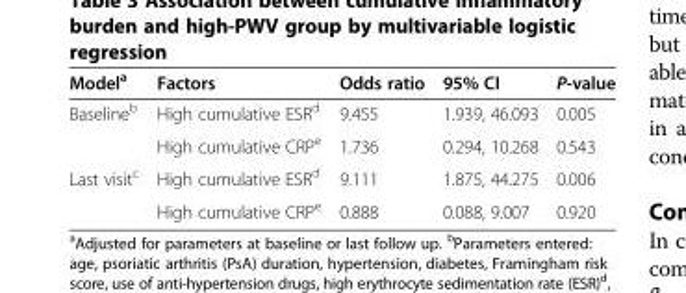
<table><thead><tr><td>Model<sup>a</sup></td><td>Factors</td><td>Odds ratio</td><td>95% CI</td><td>P-value</td></tr></thead><tbody><tr><td rowspan="2">Baseline<sup>b</sup></td><td>High cumulative ESR<sup>d</sup></td><td>9.455</td><td>1.939, 46.093</td><td>0.005</td></tr><tr><td>High cumulative CRP<sup>e</sup></td><td>1.736</td><td>0.294, 10.268</td><td>0.543</td></tr><tr><td rowspan="2">Last visit<sup>c</sup></td><td>High cumulative ESR<sup>d</sup></td><td>9.111</td><td>1.875, 44.275</td><td>0.006</td></tr><tr><td>High cumulative CRP<sup>e</sup></td><td>0.888</td><td>0.088, 9.007</td><td>0.920</td></tr></tbody></table>